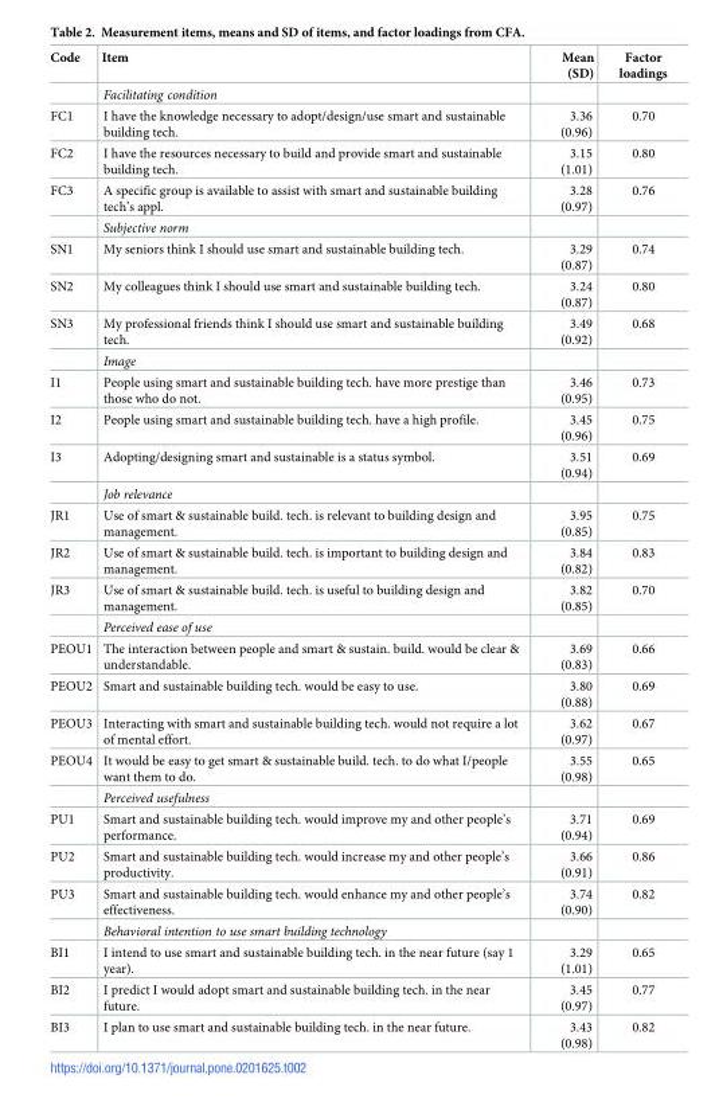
<table><thead><tr><td>Code</td><td>Item</td><td>Mean (SD)</td><td>Factor loadings</td></tr></thead><tbody><tr><td></td><td>Facilitating condition</td><td></td><td></td></tr><tr><td>FC1</td><td>I have the knowledge necessary to adopt/design/use smart and sustainable building tech.</td><td>3.36 (0.96)</td><td>0.70</td></tr><tr><td>FC2</td><td>I have the resources necessary to build and provide smart and sustainable building tech.</td><td>3.15 (1.01)</td><td>0.80</td></tr><tr><td rowspan="2">FC3</td><td>A specific group is available to assist with smart and sustainable building tech’s appl.</td><td>3.28 (0.97)</td><td>0.76</td></tr><tr><td>Subjective norm</td><td></td><td></td></tr><tr><td>SN1</td><td>My seniors think I should use smart and sustainable building tech.</td><td>3.29 (0.87)</td><td>0.74</td></tr><tr><td>SN2</td><td>My colleagues think I should use smart and sustainable building tech.</td><td>3.24 (0.87)</td><td>0.80</td></tr><tr><td rowspan="2">SN3</td><td>My professional friends think I should use smart and sustainable building tech.</td><td>3.49 (0.92)</td><td>0.68</td></tr><tr><td>Image</td><td></td><td></td></tr><tr><td>I1</td><td>People using smart and sustainable building tech. have more prestige than those who do not.</td><td>3.46 (0.95)</td><td>0.73</td></tr><tr><td>I2</td><td>People using smart and sustainable building tech. have a high profile.</td><td>3.45 (0.96)</td><td>0.75</td></tr><tr><td rowspan="2">I3</td><td>Adopting/designing smart and sustainable is a status symbol.</td><td>3.51 (0.94)</td><td>0.69</td></tr><tr><td>Job relevance</td><td></td><td></td></tr><tr><td>JR1</td><td>Use of smart &amp; sustainable build. tech. is relevant to building design and management.</td><td>3.95 (0.85)</td><td>0.75</td></tr><tr><td>JR2</td><td>Use of smart &amp; sustainable build. tech. is important to building design and management.</td><td>3.84 (0.82)</td><td>0.83</td></tr><tr><td rowspan="2">JR3</td><td>Use of smart &amp; sustainable build. tech. is useful to building design and management.</td><td>3.82 (0.85)</td><td>0.70</td></tr><tr><td>Perceived ease of use</td><td></td><td></td></tr><tr><td>PEOU1</td><td>The interaction between people and smart &amp; sustain. build. would be clear &amp; understandable.</td><td>3.69 (0.83)</td><td>0.66</td></tr><tr><td>PEOU2</td><td>Smart and sustainable building tech. would be easy to use.</td><td>3.80 (0.88)</td><td>0.69</td></tr><tr><td>PEOU3</td><td>Interacting with smart and sustainable building tech. would not require a lot of mental effort.</td><td>3.62 (0.97)</td><td>0.67</td></tr><tr><td rowspan="2">PEOU4</td><td>It would be easy to get smart &amp; sustainable build. tech. to do what I/people want them to do.</td><td>3.55 (0.98)</td><td>0.65</td></tr><tr><td>Perceived usefulness</td><td></td><td></td></tr><tr><td>PU1</td><td>Smart and sustainable building tech. would improve my and other people’s performance.</td><td>3.71 (0.94)</td><td>0.69</td></tr><tr><td>PU2</td><td>Smart and sustainable building tech. would increase my and other people’s productivity.</td><td>3.66 (0.91)</td><td>0.86</td></tr><tr><td rowspan="2">PU3</td><td>Smart and sustainable building tech. would enhance my and other people’s effectiveness.</td><td>3.74 (0.90)</td><td>0.82</td></tr><tr><td>Behavioral intention to use smart building technology</td><td></td><td></td></tr><tr><td>BI1</td><td>I intend to use smart and sustainable building tech. in the near future (say 1 year).</td><td>3.29 (1.01)</td><td>0.65</td></tr><tr><td>BI2</td><td>I predict I would adopt smart and sustainable building tech. in the near future.</td><td>3.45 (0.97)</td><td>0.77</td></tr><tr><td>BI3</td><td>I plan to use smart and sustainable building tech. in the near future.</td><td>3.43 (0.98)</td><td>0.82</td></tr></tbody></table>